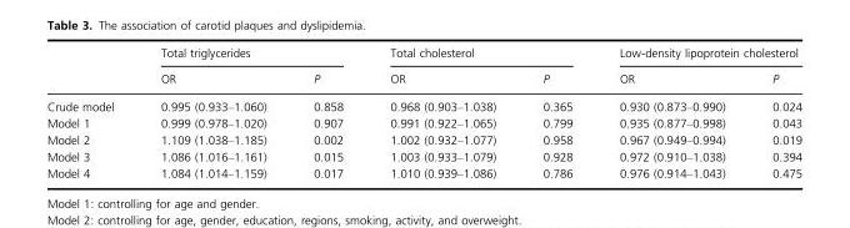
<table><thead><tr><td rowspan="2"></td><td colspan="2">Total triglycerides</td><td colspan="2">Total cholesterol</td><td colspan="2">Low-density lipoprotein cholesterol</td></tr><tr><td>OR</td><td>P</td><td>OR</td><td>P</td><td>OR</td><td>P</td></tr></thead><tbody><tr><td>Crude model</td><td>0.995 (0.933–1.060)</td><td>0.858</td><td>0.968 (0.903–1.038)</td><td>0.365</td><td>0.930 (0.873–0.990)</td><td>0.024</td></tr><tr><td>Model 1</td><td>0.999 (0.978–1.020)</td><td>0.907</td><td>0.991 (0.922–1.065)</td><td>0.799</td><td>0.935 (0.877–0.998)</td><td>0.043</td></tr><tr><td>Model 2</td><td>1.109 (1.038–1.185)</td><td>0.002</td><td>1.002 (0.932–1.077)</td><td>0.958</td><td>0.967 (0.949–0.994)</td><td>0.019</td></tr><tr><td>Model 3</td><td>1.086 (1.016–1.161)</td><td>0.015</td><td>1.003 (0.933–1.079)</td><td>0.928</td><td>0.972 (0.910–1.038)</td><td>0.394</td></tr><tr><td>Model 4</td><td>1.084 (1.014–1.159)</td><td>0.017</td><td>1.010 (0.939–1.086)</td><td>0.786</td><td>0.976 (0.914–1.043)</td><td>0.475</td></tr></tbody></table>